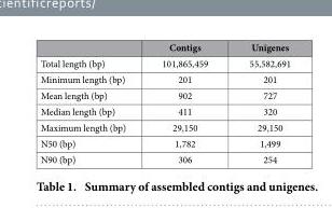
<table><thead><tr><td></td><td>Contigs</td><td>Unigenes</td></tr></thead><tbody><tr><td>Total length (bp)</td><td>101,865,459</td><td>55,582,691</td></tr><tr><td>Minimum length (bp)</td><td>201</td><td>201</td></tr><tr><td>Mean length (bp)</td><td>902</td><td>727</td></tr><tr><td>Median length (bp)</td><td>411</td><td>320</td></tr><tr><td>Maximum length (bp)</td><td>29,150</td><td>29,150</td></tr><tr><td>N50 (bp)</td><td>1,782</td><td>1,499</td></tr><tr><td>N90 (bp)</td><td>306</td><td>254</td></tr></tbody></table>